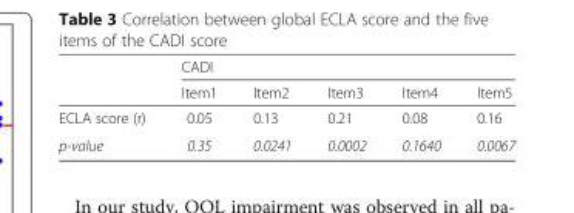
<table><thead><tr><td rowspan="2"></td><td colspan="5">CADI</td></tr><tr><td>Item1</td><td>Item2</td><td>Item3</td><td>Item4</td><td>Item5</td></tr></thead><tbody><tr><td>ECLA score (r)</td><td>0.05</td><td>0.13</td><td>0.21</td><td>0.08</td><td>0.16</td></tr><tr><td>p-value</td><td>0.35</td><td>0.0241</td><td>0.0002</td><td>0.1640</td><td>0.0067</td></tr></tbody></table>